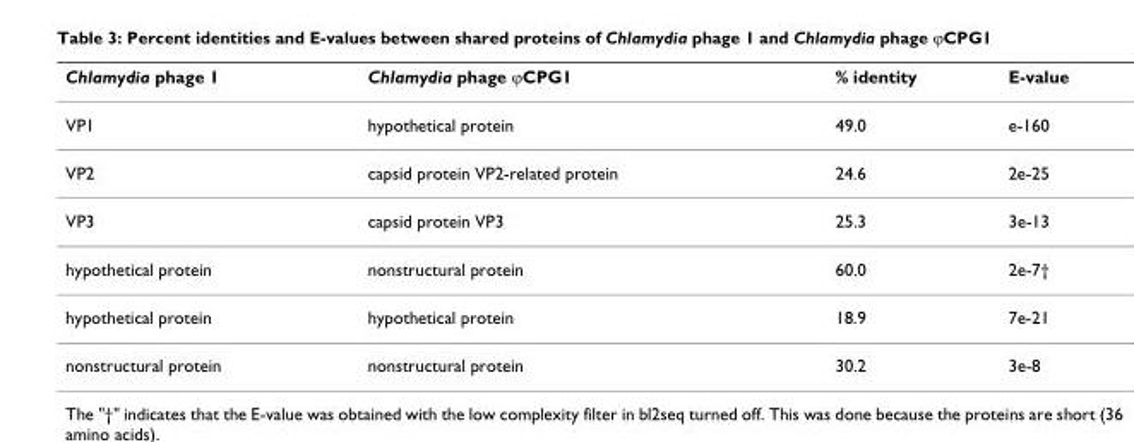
<table><thead><tr><td>Chlamydia phage 1</td><td>Chlamydia phage ϕCPG1</td><td>% identity</td><td>E-value</td></tr></thead><tbody><tr><td>VP1</td><td>hypothetical protein</td><td>49.0</td><td>e-160</td></tr><tr><td>VP2</td><td>capsid protein VP2-related protein</td><td>24.6</td><td>2e-25</td></tr><tr><td>VP3</td><td>capsid protein VP3</td><td>25.3</td><td>3e-13</td></tr><tr><td>hypothetical protein</td><td>nonstructural protein</td><td>60.0</td><td>2e-7†</td></tr><tr><td>hypothetical protein</td><td>hypothetical protein</td><td>18.9</td><td>7e-21</td></tr><tr><td>nonstructural protein</td><td>nonstructural protein</td><td>30.2</td><td>3e-8</td></tr></tbody></table>